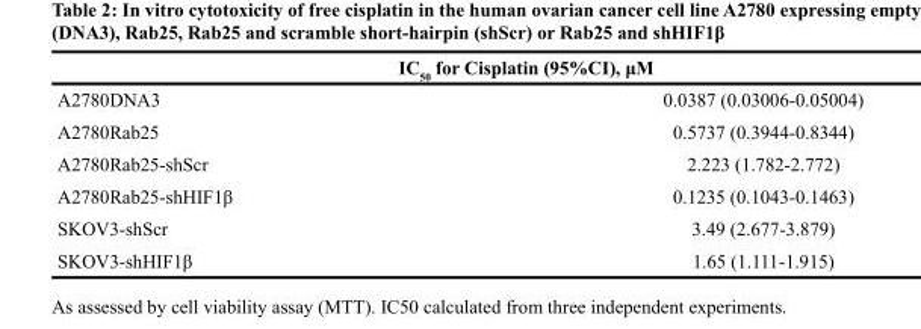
<table><thead><tr><td colspan="2">IC<sub>50</sub> for Cisplatin (95%CI), μM</td></tr><tr><td>A2780DNA3</td><td>0.0387 (0.03006-0.05004)</td></tr></thead><tbody><tr><td>A2780Rab25</td><td>0.5737 (0.3944-0.8344)</td></tr><tr><td>A2780Rab25-shScr</td><td>2.223 (1.782-2.772)</td></tr><tr><td>A2780Rab25-shHIF1β</td><td>0.1235 (0.1043-0.1463)</td></tr><tr><td>SKOV3-shScr</td><td>3.49 (2.677-3.879)</td></tr><tr><td>SKOV3-shHIF1β</td><td>1.65 (1.111-1.915)</td></tr></tbody></table>